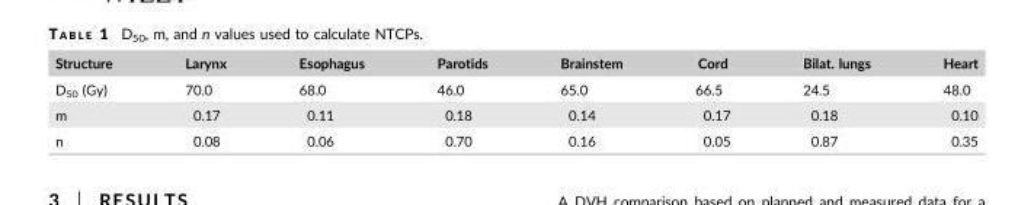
<table><thead><tr><td>Structure</td><td>Larynx</td><td>Esophagus</td><td>Parotids</td><td>Brainstem</td><td>Cord</td><td>Bilat. lungs</td><td>Heart</td></tr></thead><tbody><tr><td>D<sub>50</sub> (Gy)</td><td>70.0</td><td>68.0</td><td>46.0</td><td>65.0</td><td>66.5</td><td>24.5</td><td>48.0</td></tr><tr><td>m</td><td>0.17</td><td>0.11</td><td>0.18</td><td>0.14</td><td>0.17</td><td>0.18</td><td>0.10</td></tr><tr><td>n</td><td>0.08</td><td>0.06</td><td>0.70</td><td>0.16</td><td>0.05</td><td>0.87</td><td>0.35</td></tr></tbody></table>